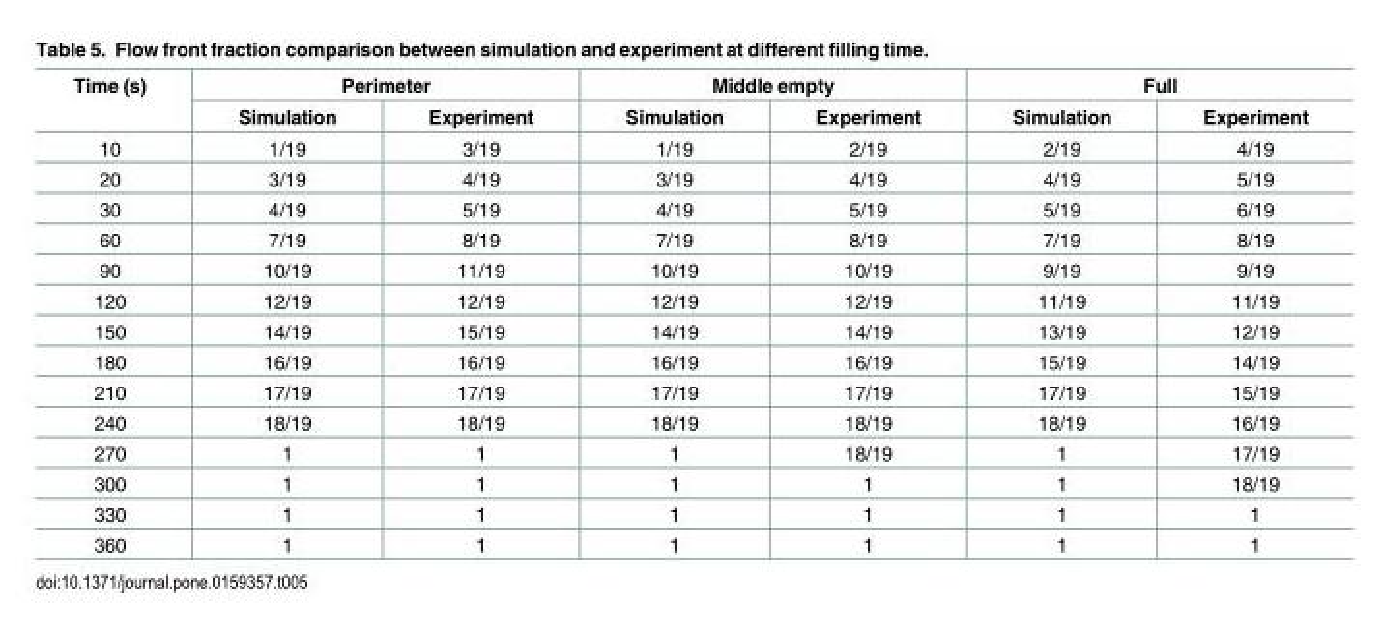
<table><thead><tr><td rowspan="2">Time (s)</td><td colspan="2">Perimeter</td><td colspan="2">Middle empty</td><td colspan="2">Full</td></tr><tr><td>Simulation</td><td>Experiment</td><td>Simulation</td><td>Experiment</td><td>Simulation</td><td>Experiment</td></tr></thead><tbody><tr><td>10</td><td>1/19</td><td>3/19</td><td>1/19</td><td>2/19</td><td>2/19</td><td>4/19</td></tr><tr><td>20</td><td>3/19</td><td>4/19</td><td>3/19</td><td>4/19</td><td>4/19</td><td>5/19</td></tr><tr><td>30</td><td>4/19</td><td>5/19</td><td>4/19</td><td>5/19</td><td>5/19</td><td>6/19</td></tr><tr><td>60</td><td>7/19</td><td>8/19</td><td>7/19</td><td>8/19</td><td>7/19</td><td>8/19</td></tr><tr><td>90</td><td>10/19</td><td>11/19</td><td>10/19</td><td>10/19</td><td>9/19</td><td>9/19</td></tr><tr><td>120</td><td>12/19</td><td>12/19</td><td>12/19</td><td>12/19</td><td>11/19</td><td>11/19</td></tr><tr><td>150</td><td>14/19</td><td>15/19</td><td>14/19</td><td>14/19</td><td>13/19</td><td>12/19</td></tr><tr><td>180</td><td>16/19</td><td>16/19</td><td>16/19</td><td>16/19</td><td>15/19</td><td>14/19</td></tr><tr><td>210</td><td>17/19</td><td>17/19</td><td>17/19</td><td>17/19</td><td>17/19</td><td>15/19</td></tr><tr><td>240</td><td>18/19</td><td>18/19</td><td>18/19</td><td>18/19</td><td>18/19</td><td>16/19</td></tr><tr><td>270</td><td>1</td><td>1</td><td>1</td><td>18/19</td><td>1</td><td>17/19</td></tr><tr><td>300</td><td>1</td><td>1</td><td>1</td><td>1</td><td>1</td><td>18/19</td></tr><tr><td>330</td><td>1</td><td>1</td><td>1</td><td>1</td><td>1</td><td>1</td></tr><tr><td>360</td><td>1</td><td>1</td><td>1</td><td>1</td><td>1</td><td>1</td></tr></tbody></table>